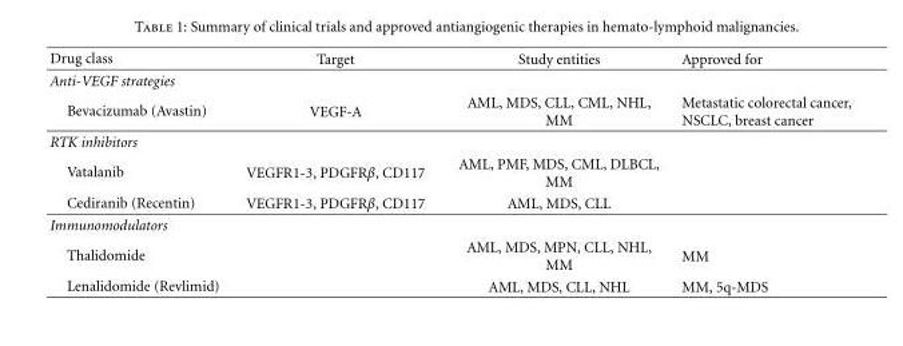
<table><thead><tr><td>Drug class</td><td>Target</td><td>Study entities</td><td>Approved for</td></tr></thead><tbody><tr><td colspan="4">Anti-VEGF strategies</td></tr><tr><td>Bevacizumab (Avastin)</td><td>VEGF-A</td><td>AML, MDS, CLL, CML, NHL, MM</td><td>Metastatic colorectal cancer, NSCLC, breast cancer</td></tr><tr><td colspan="4">RTK inhibitors</td></tr><tr><td>Vatalanib</td><td>VEGFR1-3, PDGFRβ, CD117</td><td>AML, PMF, MDS, CML, DLBCL, MM</td><td></td></tr><tr><td>Cediranib (Recentin)</td><td>VEGFR1-3, PDGFRβ, CD117</td><td>AML, MDS, CLL</td><td></td></tr><tr><td colspan="4">Immunomodulators</td></tr><tr><td>Thalidomide</td><td></td><td>AML, MDS, MPN, CLL, NHL, MM</td><td>MM</td></tr><tr><td>Lenalidomide (Revlimid)</td><td></td><td>AML, MDS, CLL, NHL</td><td>MM, 5q-MDS</td></tr></tbody></table>